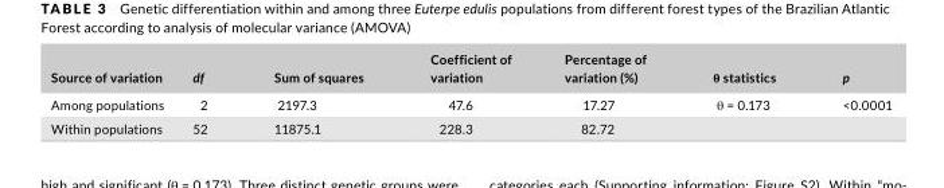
<table><thead><tr><td>Source of variation</td><td>df</td><td>Sum of squares</td><td>Coefficient of variation</td><td>Percentage of variation (%)</td><td>θ statistics</td><td>p</td></tr></thead><tbody><tr><td>Among populations</td><td>2</td><td>2197.3</td><td>47.6</td><td>17.27</td><td>θ = 0.173</td><td>&lt;0.0001</td></tr><tr><td>Within populations</td><td>52</td><td>11875.1</td><td>228.3</td><td>82.72</td><td></td><td></td></tr></tbody></table>